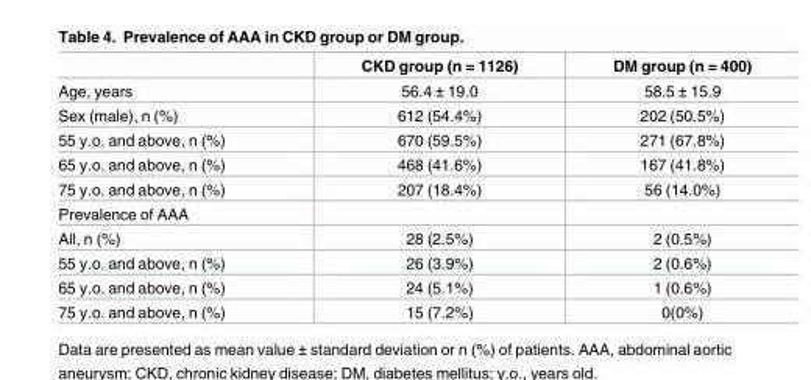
<table><thead><tr><td></td><td>CKD group (n = 1126)</td><td>DM group (n = 400)</td></tr></thead><tbody><tr><td>Age, years</td><td>56.4 ± 19.0</td><td>58.5 ± 15.9</td></tr><tr><td>Sex (male), n (%)</td><td>612 (54.4%)</td><td>202 (50.5%)</td></tr><tr><td>55 y.o. and above, n (%)</td><td>670 (59.5%)</td><td>271 (67.8%)</td></tr><tr><td>65 y.o. and above, n (%)</td><td>468 (41.6%)</td><td>167 (41.8%)</td></tr><tr><td>75 y.o. and above, n (%)</td><td>207 (18.4%)</td><td>56 (14.0%)</td></tr><tr><td colspan="3">Prevalence of AAA</td></tr><tr><td>All, n (%)</td><td>28 (2.5%)</td><td>2 (0.5%)</td></tr><tr><td>55 y.o. and above, n (%)</td><td>26 (3.9%)</td><td>2 (0.6%)</td></tr><tr><td>65 y.o. and above, n (%)</td><td>24 (5.1%)</td><td>1 (0.6%)</td></tr><tr><td>75 y.o. and above, n (%)</td><td>15 (7.2%)</td><td>0(0%)</td></tr></tbody></table>